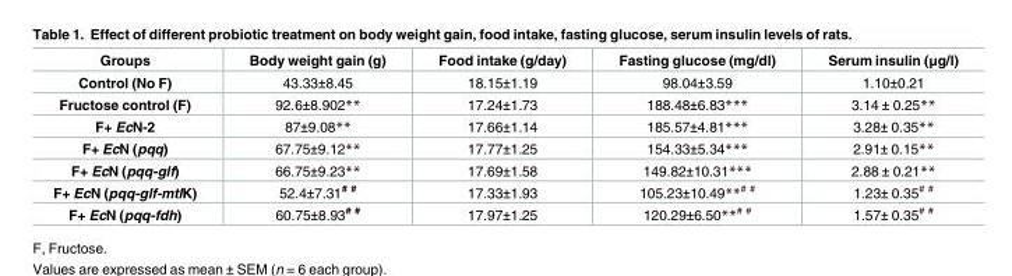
<table><thead><tr><td>Groups</td><td>Body weight gain (g)</td><td>Food intake (g/day)</td><td>Fasting glucose (mg/dl)</td><td>Serum insulin (μg/l)</td></tr></thead><tbody><tr><td>Control (No F)</td><td>43.33±8.45</td><td>18.15±1.19</td><td>98.04±3.59</td><td>1.10±0.21</td></tr><tr><td>Fructose control (F)</td><td>92.6±8.902**</td><td>17.24±1.73</td><td>188.48±6.83***</td><td>3.14 ± 0.25**</td></tr><tr><td>F+ EcN-2</td><td>87±9.08**</td><td>17.66±1.14</td><td>185.57±4.81***</td><td>3.28± 0.35**</td></tr><tr><td>F+ EcN (pqq)</td><td>67.75±9.12**</td><td>17.77±1.25</td><td>154.33±5.34***</td><td>2.91± 0.15**</td></tr><tr><td>F+ EcN (pqq-glf)</td><td>66.75±9.23**</td><td>17.69±1.58</td><td>149.82±10.31***</td><td>2.88 ± 0.21**</td></tr><tr><td>F+ EcN (pqq-glf-mtlK)</td><td>52.4±7.31<sup># #</sup></td><td>17.33±1.93</td><td>105.23±10.49**<sup># #</sup></td><td>1.23± 0.35<sup># #</sup></td></tr><tr><td>F+ EcN (pqq-fdh)</td><td>60.75±8.93<sup># #</sup></td><td>17.97±1.25</td><td>120.29±6.50**<sup># #</sup></td><td>1.57± 0.35<sup># #</sup></td></tr></tbody></table>